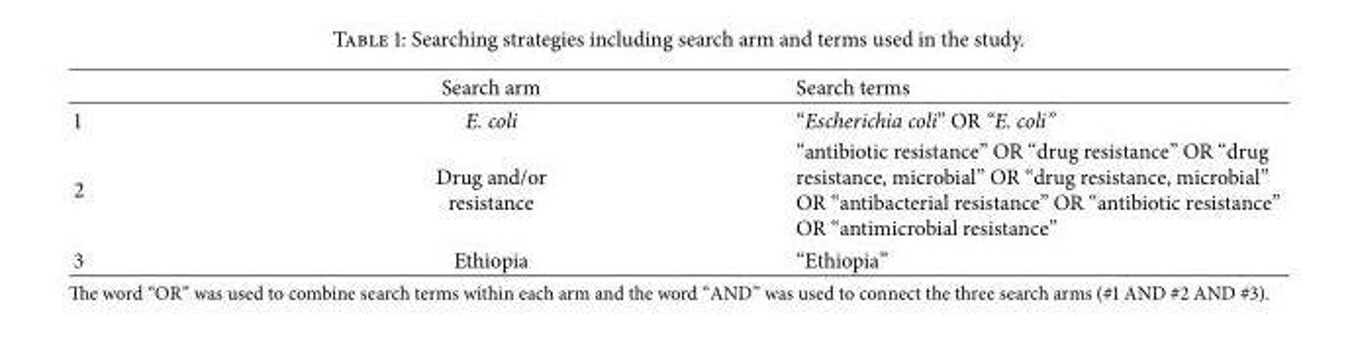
<table><thead><tr><td></td><td>Search arm</td><td>Search terms</td></tr></thead><tbody><tr><td>1</td><td>E. coli</td><td>“Escherichia coli” OR “E. coli”</td></tr><tr><td>2</td><td>Drug and/or resistance</td><td>“antibiotic resistance” OR “drug resistance” OR “drug resistance, microbial” OR “drug resistance, microbial” OR “antibacterial resistance” OR “antibiotic resistance” OR “antimicrobial resistance”</td></tr><tr><td>3</td><td>Ethiopia</td><td>“Ethiopia”</td></tr></tbody></table>